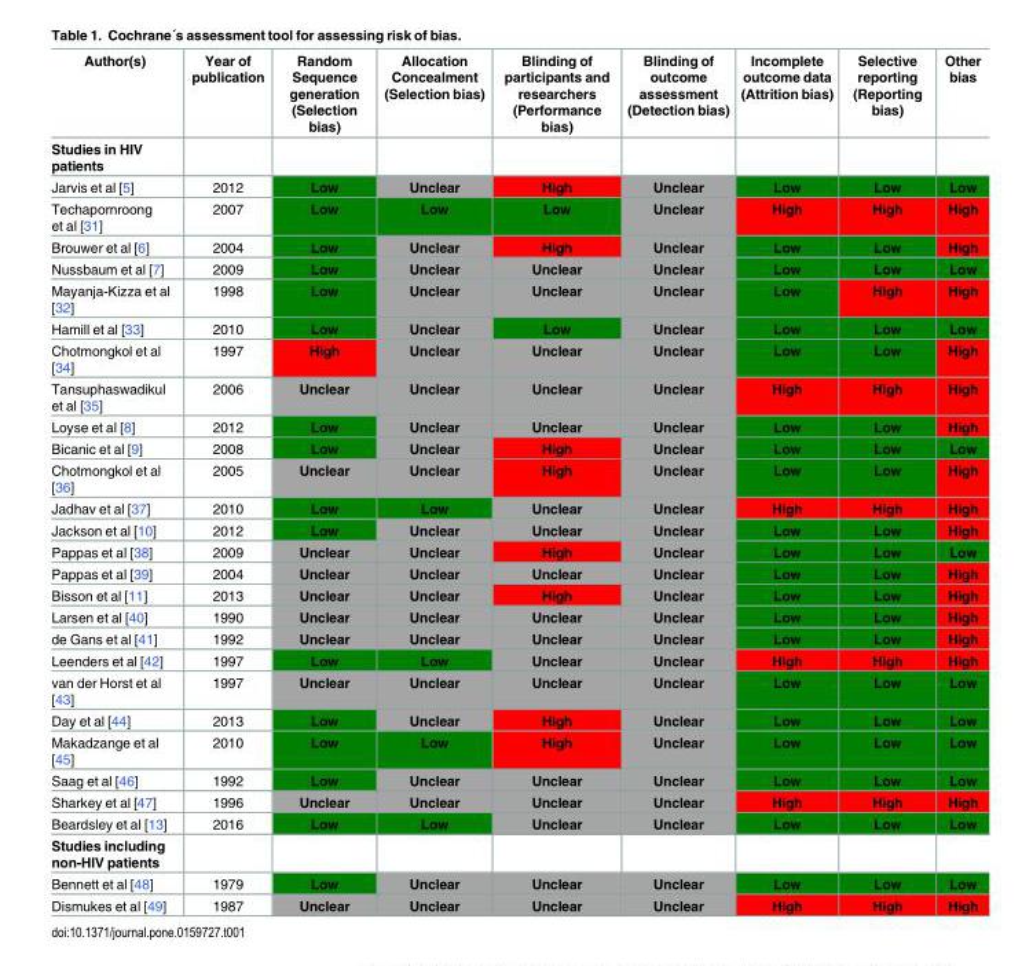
<table><thead><tr><td>Author(s)</td><td>Year of publication</td><td>Random Sequence generation (Selection bias)</td><td>Allocation Concealment (Selection bias)</td><td>Blinding of participants and researchers (Performance bias)</td><td>Blinding of outcome assessment (Detection bias)</td><td>Incomplete outcome data (Attrition bias)</td><td>Selective reporting (Reporting bias)</td><td>Other bias</td></tr></thead><tbody><tr><td colspan="9">Studies in HIV patients</td></tr><tr><td>Jarvis et al [5]</td><td>2012</td><td>Low</td><td>Unclear</td><td>High</td><td>Unclear</td><td>Low</td><td>Low</td><td>Low</td></tr><tr><td>Techapornroong et al [31]</td><td>2007</td><td>Low</td><td>Low</td><td>Low</td><td>Unclear</td><td>High</td><td>High</td><td>High</td></tr><tr><td>Brouwer et al [6]</td><td>2004</td><td>Low</td><td>Unclear</td><td>High</td><td>Unclear</td><td>Low</td><td>Low</td><td>High</td></tr><tr><td>Nussbaum et al [7]</td><td>2009</td><td>Low</td><td>Unclear</td><td>Unclear</td><td>Unclear</td><td>Low</td><td>Low</td><td>Low</td></tr><tr><td>Mayanja-Kizza et al [32]</td><td>1998</td><td>Low</td><td>Unclear</td><td>Unclear</td><td>Unclear</td><td>Low</td><td>High</td><td>High</td></tr><tr><td>Hamill et al [33]</td><td>2010</td><td>Low</td><td>Unclear</td><td>Low</td><td>Unclear</td><td>Low</td><td>Low</td><td>Low</td></tr><tr><td>Chotmongkol et al [34]</td><td>1997</td><td>High</td><td>Unclear</td><td>Unclear</td><td>Unclear</td><td>Low</td><td>Low</td><td>High</td></tr><tr><td>Tansuphaswadikul et al [35]</td><td>2006</td><td>Unclear</td><td>Unclear</td><td>Unclear</td><td>Unclear</td><td>High</td><td>High</td><td>High</td></tr><tr><td>Loyse et al [8]</td><td>2012</td><td>Low</td><td>Unclear</td><td>Unclear</td><td>Unclear</td><td>Low</td><td>Low</td><td>High</td></tr><tr><td>Bicanic et al [9]</td><td>2008</td><td>Low</td><td>Unclear</td><td>High</td><td>Unclear</td><td>Low</td><td>Low</td><td>Low</td></tr><tr><td>Chotmongkol et al [36]</td><td>2005</td><td>Unclear</td><td>Unclear</td><td>High</td><td>Unclear</td><td>Low</td><td>Low</td><td>High</td></tr><tr><td>Jadhav et al [37]</td><td>2010</td><td>Low</td><td>Low</td><td>Unclear</td><td>Unclear</td><td>High</td><td>High</td><td>High</td></tr><tr><td>Jackson et al [10]</td><td>2012</td><td>Low</td><td>Unclear</td><td>Unclear</td><td>Unclear</td><td>Low</td><td>Low</td><td>High</td></tr><tr><td>Pappas et al [38]</td><td>2009</td><td>Unclear</td><td>Unclear</td><td>High</td><td>Unclear</td><td>Low</td><td>Low</td><td>Low</td></tr><tr><td>Pappas et al [39]</td><td>2004</td><td>Unclear</td><td>Unclear</td><td>Unclear</td><td>Unclear</td><td>Low</td><td>Low</td><td>High</td></tr><tr><td>Bisson et al [11]</td><td>2013</td><td>Unclear</td><td>Unclear</td><td>High</td><td>Unclear</td><td>Low</td><td>Low</td><td>High</td></tr><tr><td>Larsen et al [40]</td><td>1990</td><td>Unclear</td><td>Unclear</td><td>Unclear</td><td>Unclear</td><td>Low</td><td>Low</td><td>High</td></tr><tr><td>de Gans et al [41]</td><td>1992</td><td>Unclear</td><td>Unclear</td><td>Unclear</td><td>Unclear</td><td>Low</td><td>Low</td><td>High</td></tr><tr><td>Leenders et al [42]</td><td>1997</td><td>Low</td><td>Low</td><td>Unclear</td><td>Unclear</td><td>High</td><td>High</td><td>High</td></tr><tr><td>van der Horst et al [43]</td><td>1997</td><td>Unclear</td><td>Unclear</td><td>Unclear</td><td>Unclear</td><td>Low</td><td>Low</td><td>Low</td></tr><tr><td>Day et al [44]</td><td>2013</td><td>Low</td><td>Unclear</td><td>High</td><td>Unclear</td><td>Low</td><td>Low</td><td>Low</td></tr><tr><td>Makadzange et al [45]</td><td>2010</td><td>Low</td><td>Low</td><td>High</td><td>Unclear</td><td>Low</td><td>Low</td><td>Low</td></tr><tr><td>Saag et al [46]</td><td>1992</td><td>Low</td><td>Unclear</td><td>Unclear</td><td>Unclear</td><td>Low</td><td>Low</td><td>Low</td></tr><tr><td>Sharkey et al [47]</td><td>1996</td><td>Unclear</td><td>Unclear</td><td>Unclear</td><td>Unclear</td><td>High</td><td>High</td><td>High</td></tr><tr><td>Beardsley et al [13]</td><td>2016</td><td>Low</td><td>Low</td><td>Unclear</td><td>Unclear</td><td>Low</td><td>Low</td><td>Low</td></tr><tr><td colspan="9">Studies including non-HIV patients</td></tr><tr><td>Bennett et al [48]</td><td>1979</td><td>Low</td><td>Unclear</td><td>Unclear</td><td>Unclear</td><td>Low</td><td>Low</td><td>Low</td></tr><tr><td>Dismukes et al [49]</td><td>1987</td><td>Unclear</td><td>Unclear</td><td>Unclear</td><td>Unclear</td><td>High</td><td>High</td><td>High</td></tr></tbody></table>